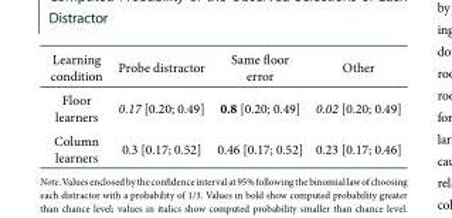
<table><thead><tr><td>Learning condition</td><td>Probe distractor</td><td>Same floor error</td><td>Other</td></tr></thead><tbody><tr><td>Floor learners</td><td>0.17 [0.20; 0.49]</td><td>0.8 [0.20; 0.49]</td><td>0.02 [0.20; 0.49]</td></tr><tr><td>Column learners</td><td>0.3 [0.17; 0.52]</td><td>0.46 [0.17; 0.52]</td><td>0.23 [0.17; 0.46]</td></tr></tbody></table>